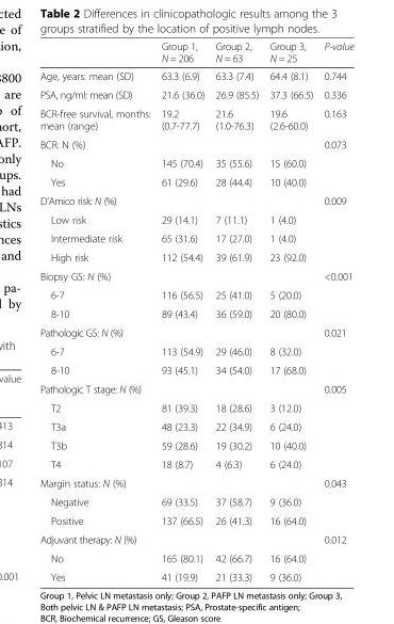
<table><thead><tr><td></td><td>Group 1, N = 206</td><td>Group 2, N = 63</td><td>Group 3, N = 25</td><td>P-value</td></tr></thead><tbody><tr><td>Age, years: mean (SD)</td><td>63.3 (6.9)</td><td>63.3 (7.4)</td><td>64.4 (8.1)</td><td>0.744</td></tr><tr><td>PSA, ng/ml: mean (SD)</td><td>21.6 (36.0)</td><td>26.9 (85.5)</td><td>37.3 (66.5)</td><td>0.336</td></tr><tr><td>BCR-free survival, months: mean (range)</td><td>19.2 (0.7-77.7)</td><td>21.6 (1.0-76.3)</td><td>19.6 (2.6-60.0)</td><td>0.163</td></tr><tr><td>BCR: N (%)</td><td></td><td></td><td></td><td>0.073</td></tr><tr><td>No</td><td>145 (70.4)</td><td>35 (55.6)</td><td>15 (60.0)</td><td></td></tr><tr><td>Yes</td><td>61 (29.6)</td><td>28 (44.4)</td><td>10 (40.0)</td><td></td></tr><tr><td>D’Amico risk: N (%)</td><td></td><td></td><td></td><td>0.009</td></tr><tr><td>Low risk</td><td>29 (14.1)</td><td>7 (11.1)</td><td>1 (4.0)</td><td></td></tr><tr><td>Intermediate risk</td><td>65 (31.6)</td><td>17 (27.0)</td><td>1 (4.0)</td><td></td></tr><tr><td>High risk</td><td>112 (54.4)</td><td>39 (61.9)</td><td>23 (92.0)</td><td></td></tr><tr><td>Biopsy GS: N (%)</td><td></td><td></td><td></td><td>&lt;0.001</td></tr><tr><td>6-7</td><td>116 (56.5)</td><td>25 (41.0)</td><td>5 (20.0)</td><td></td></tr><tr><td>8-10</td><td>89 (43.4)</td><td>36 (59.0)</td><td>20 (80.0)</td><td></td></tr><tr><td>Pathologic GS: N (%)</td><td></td><td></td><td></td><td>0.021</td></tr><tr><td>6-7</td><td>113 (54.9)</td><td>29 (46.0)</td><td>8 (32.0)</td><td></td></tr><tr><td>8-10</td><td>93 (45.1)</td><td>34 (54.0)</td><td>17 (68.0)</td><td></td></tr><tr><td>Pathologic T stage: N (%)</td><td></td><td></td><td></td><td>0.005</td></tr><tr><td>T2</td><td>81 (39.3)</td><td>18 (28.6)</td><td>3 (12.0)</td><td></td></tr><tr><td>T3a</td><td>48 (23.3)</td><td>22 (34.9)</td><td>6 (24.0)</td><td></td></tr><tr><td>T3b</td><td>59 (28.6)</td><td>19 (30.2)</td><td>10 (40.0)</td><td></td></tr><tr><td>T4</td><td>18 (8.7)</td><td>4 (6.3)</td><td>6 (24.0)</td><td></td></tr><tr><td>Margin status: N (%)</td><td></td><td></td><td></td><td>0.043</td></tr><tr><td>Negative</td><td>69 (33.5)</td><td>37 (58.7)</td><td>9 (36.0)</td><td></td></tr><tr><td>Positive</td><td>137 (66.5)</td><td>26 (41.3)</td><td>16 (64.0)</td><td></td></tr><tr><td>Adjuvant therapy: N (%)</td><td></td><td></td><td></td><td>0.012</td></tr><tr><td>No</td><td>165 (80.1)</td><td>42 (66.7)</td><td>16 (64.0)</td><td></td></tr><tr><td>Yes</td><td>41 (19.9)</td><td>21 (33.3)</td><td>9 (36.0)</td><td></td></tr></tbody></table>